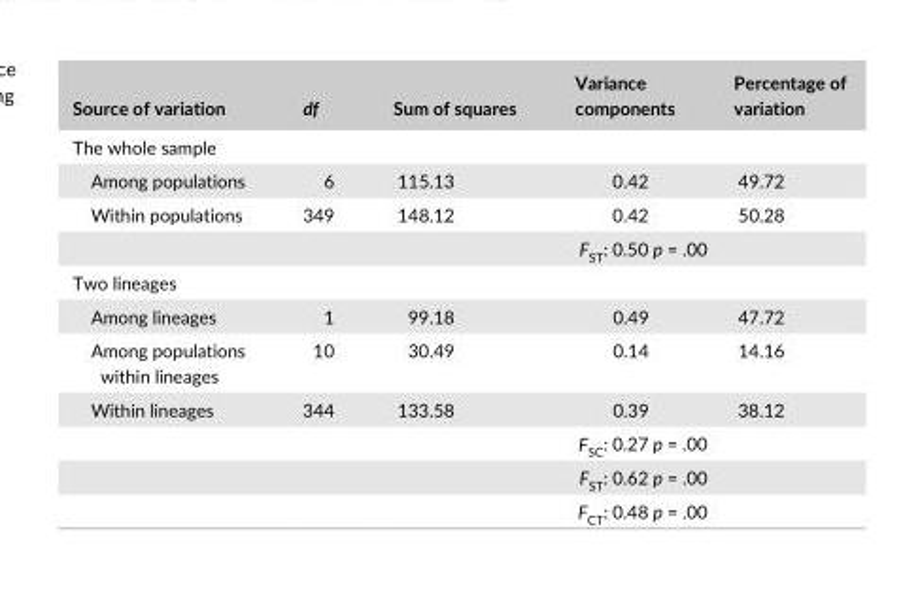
<table><thead><tr><td>Source of variation</td><td>df</td><td>Sum of squares</td><td>Variance components</td><td>Percentage of variation</td></tr></thead><tbody><tr><td colspan="5">The whole sample</td></tr><tr><td>Among populations</td><td>6</td><td>115.13</td><td>0.42</td><td>49.72</td></tr><tr><td rowspan="2">Within populations</td><td>349</td><td>148.12</td><td>0.42</td><td>50.28</td></tr><tr><td></td><td></td><td>F<sub>ST</sub>: 0.50 p = .00</td><td></td></tr><tr><td colspan="5">Two lineages</td></tr><tr><td>Among lineages</td><td>1</td><td>99.18</td><td>0.49</td><td>47.72</td></tr><tr><td>Among populations within lineages</td><td>10</td><td>30.49</td><td>0.14</td><td>14.16</td></tr><tr><td rowspan="4">Within lineages</td><td>344</td><td>133.58</td><td>0.39</td><td>38.12</td></tr><tr><td></td><td></td><td>F<sub>SC</sub>: 0.27 p = .00</td><td></td></tr><tr><td></td><td></td><td>F<sub>ST</sub>: 0.62 p = .00</td><td></td></tr><tr><td></td><td></td><td>F<sub>CT</sub>: 0.48 p = .00</td><td></td></tr></tbody></table>